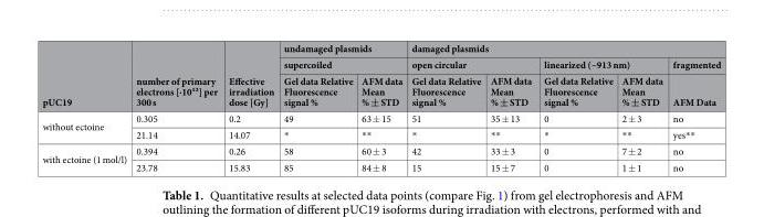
<table><thead><tr><td rowspan="3">pUC19</td><td rowspan="3">number of primary electrons [∙10¹²] per 300 s</td><td rowspan="3">Effective irradiation dose [Gy]</td><td rowspan="2" colspan="2">undamaged plasmids supercoiled</td><td colspan="5">damaged plasmids</td></tr><tr><td colspan="2">open circular</td><td colspan="2">linearized (~913 nm)</td><td rowspan="2">fragmented AFM Data</td></tr><tr><td>Gel data Relative Fluorescence signal %</td><td>AFM data Mean % ± STD</td><td>Gel data Relative Fluorescence signal %</td><td>AFM data Mean % ± STD</td><td>Gel data Relative Fluorescence signal %</td><td>AFM data Mean % ± STD</td></tr></thead><tbody><tr><td rowspan="2">without ectoine</td><td>0.305</td><td>0.2</td><td>49</td><td>63 ± 15</td><td>51</td><td>35 ± 13</td><td>0</td><td>2 ± 3</td><td>no</td></tr><tr><td>21.14</td><td>14.07</td><td>*</td><td>**</td><td>*</td><td>**</td><td>*</td><td>**</td><td>yes**</td></tr><tr><td rowspan="2">with ectoine (1 mol/l)</td><td>0.394</td><td>0.26</td><td>58</td><td>60 ± 3</td><td>42</td><td>33 ± 3</td><td>0</td><td>7 ± 2</td><td>no</td></tr><tr><td>23.78</td><td>15.83</td><td>85</td><td>84 ± 8</td><td>15</td><td>15 ± 7</td><td>0</td><td>1 ± 1</td><td>no</td></tr></tbody></table>